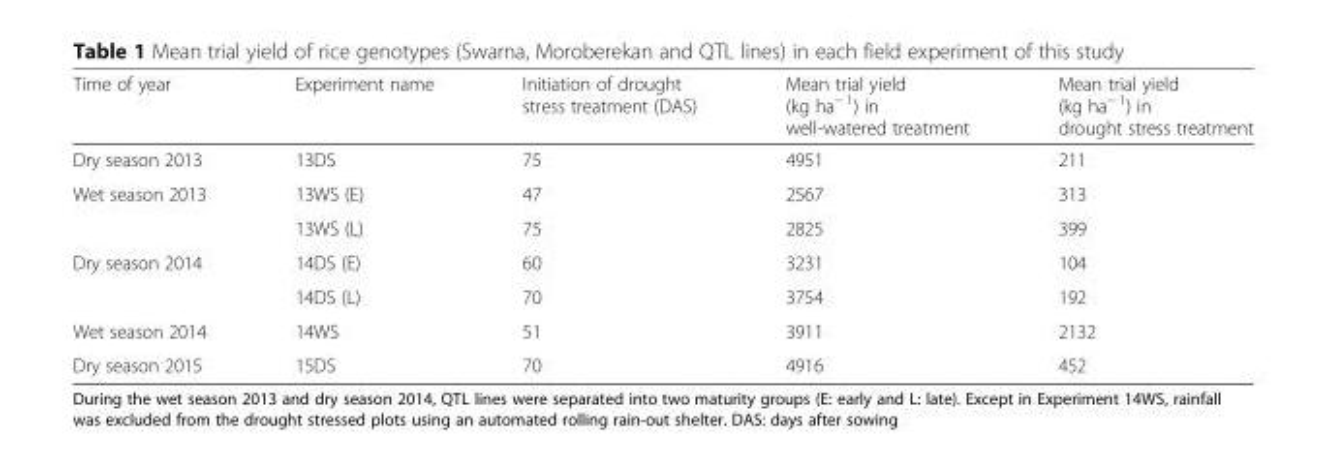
<table><thead><tr><td>Time of year</td><td>Experiment name</td><td>Initiation of drought stress treatment (DAS)</td><td>Mean trial yield (kg ha<sup>− 1</sup>) in well-watered treatment</td><td>Mean trial yield (kg ha<sup>− 1</sup>) in drought stress treatment</td></tr></thead><tbody><tr><td>Dry season 2013</td><td>13DS</td><td>75</td><td>4951</td><td>211</td></tr><tr><td rowspan="2">Wet season 2013</td><td>13WS (E)</td><td>47</td><td>2567</td><td>313</td></tr><tr><td>13WS (L)</td><td>75</td><td>2825</td><td>399</td></tr><tr><td rowspan="2">Dry season 2014</td><td>14DS (E)</td><td>60</td><td>3231</td><td>104</td></tr><tr><td>14DS (L)</td><td>70</td><td>3754</td><td>192</td></tr><tr><td>Wet season 2014</td><td>14WS</td><td>51</td><td>3911</td><td>2132</td></tr><tr><td>Dry season 2015</td><td>15DS</td><td>70</td><td>4916</td><td>452</td></tr></tbody></table>